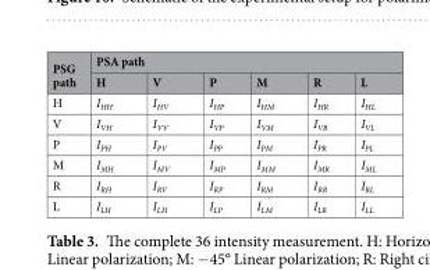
<table><thead><tr><td rowspan="2">PSG path</td><td colspan="6">PSA path</td></tr><tr><td>H</td><td>V</td><td>P</td><td>M</td><td>R</td><td>L</td></tr></thead><tbody><tr><td>H</td><td>I<sub>HH</sub></td><td>I<sub>HV</sub></td><td>I<sub>HP</sub></td><td>I<sub>HM</sub></td><td>I<sub>HR</sub></td><td>I<sub>HL</sub></td></tr><tr><td>V</td><td>I<sub>VH</sub></td><td>I<sub>VV</sub></td><td>I<sub>VP</sub></td><td>I<sub>VM</sub></td><td>I<sub>VR</sub></td><td>I<sub>VL</sub></td></tr><tr><td>P</td><td>I<sub>PH</sub></td><td>I<sub>PV</sub></td><td>I<sub>PP</sub></td><td>I<sub>PM</sub></td><td>I<sub>PR</sub></td><td>I<sub>PL</sub></td></tr><tr><td>M</td><td>I<sub>MH</sub></td><td>I<sub>MV</sub></td><td>I<sub>MP</sub></td><td>I<sub>MM</sub></td><td>I<sub>MR</sub></td><td>I<sub>ML</sub></td></tr><tr><td>R</td><td>I<sub>RH</sub></td><td>I<sub>RV</sub></td><td>I<sub>RP</sub></td><td>I<sub>RM</sub></td><td>I<sub>RR</sub></td><td>I<sub>RL</sub></td></tr><tr><td>L</td><td>I<sub>LH</sub></td><td>I<sub>LH</sub></td><td>I<sub>LP</sub></td><td>I<sub>LM</sub></td><td>I<sub>LR</sub></td><td>I<sub>LL</sub></td></tr></tbody></table>